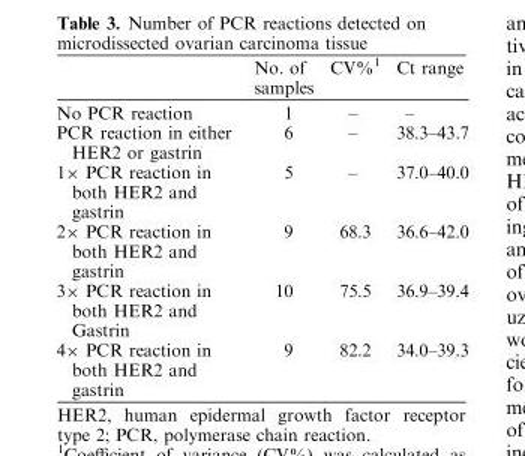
<table><thead><tr><td></td><td>No. of samples</td><td>CV%<sup>1</sup></td><td>Ct range</td></tr></thead><tbody><tr><td>No PCR reaction</td><td>1</td><td>–</td><td>–</td></tr><tr><td>PCR reaction in either HER2 or gastrin</td><td>6</td><td>–</td><td>38.3–43.7</td></tr><tr><td>1× PCR reaction in both HER2 and gastrin</td><td>5</td><td>–</td><td>37.0–40.0</td></tr><tr><td>2× PCR reaction in both HER2 and gastrin</td><td>9</td><td>68.3</td><td>36.6–42.0</td></tr><tr><td>3× PCR reaction in both HER2 and Gastrin</td><td>10</td><td>75.5</td><td>36.9–39.4</td></tr><tr><td>4× PCR reaction in both HER2 and gastrin</td><td>9</td><td>82.2</td><td>34.0–39.3</td></tr></tbody></table>